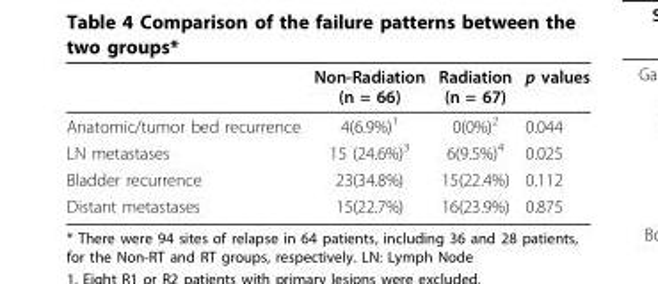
<table><thead><tr><td></td><td>Non-Radiation (n = 66)</td><td>Radiation (n = 67)</td><td>p values</td></tr></thead><tbody><tr><td>Anatomic/tumor bed recurrence</td><td>4(6.9%)<sup>1</sup></td><td>0(0%)<sup>2</sup></td><td>0.044</td></tr><tr><td>LN metastases</td><td>15 (24.6%)<sup>3</sup></td><td>6(9.5%)<sup>4</sup></td><td>0.025</td></tr><tr><td>Bladder recurrence</td><td>23(34.8%)</td><td>15(22.4%)</td><td>0.112</td></tr><tr><td>Distant metastases</td><td>15(22.7%)</td><td>16(23.9%)</td><td>0.875</td></tr></tbody></table>